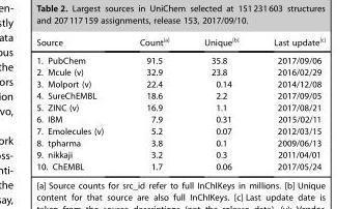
<table><thead><tr><td>Source</td><td>Count<sup>[a]</sup></td><td>Unique<sup>[b]</sup></td><td>Last update<sup>[c]</sup></td></tr></thead><tbody><tr><td>1. PubChem</td><td>91.5</td><td>35.8</td><td>2017/09/06</td></tr><tr><td>2. Mcule (v)</td><td>32.9</td><td>23.8</td><td>2016/02/29</td></tr><tr><td>3. Molport (v)</td><td>22.4</td><td>0.14</td><td>2014/12/08</td></tr><tr><td>4. SureChEMBL</td><td>18.6</td><td>2.2</td><td>2017/09/05</td></tr><tr><td>5. ZINC (v)</td><td>16.9</td><td>1.1</td><td>2017/08/21</td></tr><tr><td>6. IBM</td><td>7.9</td><td>0.31</td><td>2015/02/11</td></tr><tr><td>7. Emolecules (v)</td><td>5.2</td><td>0.07</td><td>2012/03/15</td></tr><tr><td>8. tpharma</td><td>3.8</td><td>0.1</td><td>2009/06/13</td></tr><tr><td>9. nikkaji</td><td>3.2</td><td>0.3</td><td>2011/04/01</td></tr><tr><td>10. ChEMBL</td><td>1.7</td><td>0.06</td><td>2017/05/24</td></tr></tbody></table>